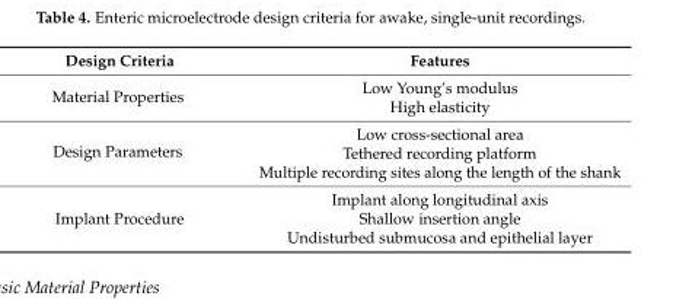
<table><thead><tr><td>Design Criteria</td><td>Features</td></tr></thead><tbody><tr><td>Material Properties</td><td>Low Young’s modulus High elasticity</td></tr><tr><td>Design Parameters</td><td>Low cross-sectional area Tethered recording platform Multiple recording sites along the length of the shank</td></tr><tr><td>Implant Procedure</td><td>Implant along longitudinal axis Shallow insertion angle Undisturbed submucosa and epithelial layer</td></tr></tbody></table>